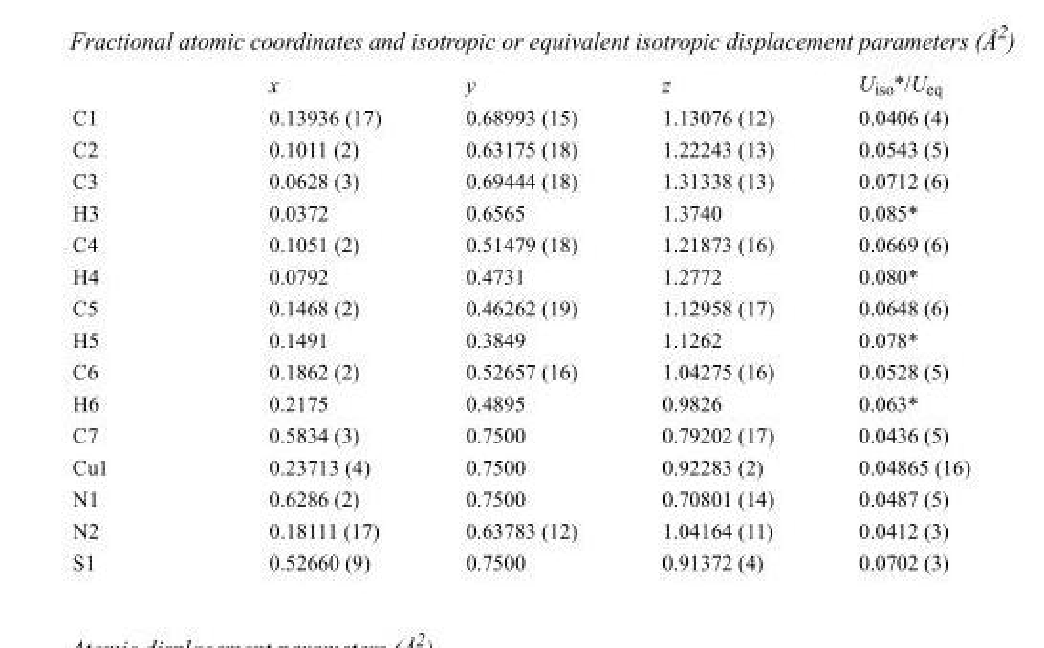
<table><thead><tr><td></td><td>x</td><td>y</td><td>z</td><td>U<sub>iso</sub>*/U<sub>eq</sub></td></tr></thead><tbody><tr><td>C1</td><td>0.13936 (17)</td><td>0.68993 (15)</td><td>1.13076 (12)</td><td>0.0406 (4)</td></tr><tr><td>C2</td><td>0.1011 (2)</td><td>0.63175 (18)</td><td>1.22243 (13)</td><td>0.0543 (5)</td></tr><tr><td>C3</td><td>0.0628 (3)</td><td>0.69444 (18)</td><td>1.31338 (13)</td><td>0.0712 (6)</td></tr><tr><td>H3</td><td>0.0372</td><td>0.6565</td><td>1.3740</td><td>0.085*</td></tr><tr><td>C4</td><td>0.1051 (2)</td><td>0.51479 (18)</td><td>1.21873 (16)</td><td>0.0669 (6)</td></tr><tr><td>H4</td><td>0.0792</td><td>0.4731</td><td>1.2772</td><td>0.080*</td></tr><tr><td>C5</td><td>0.1468 (2)</td><td>0.46262 (19)</td><td>1.12958 (17)</td><td>0.0648 (6)</td></tr><tr><td>H5</td><td>0.1491</td><td>0.3849</td><td>1.1262</td><td>0.078*</td></tr><tr><td>C6</td><td>0.1862 (2)</td><td>0.52657 (16)</td><td>1.04275 (16)</td><td>0.0528 (5)</td></tr><tr><td>H6</td><td>0.2175</td><td>0.4895</td><td>0.9826</td><td>0.063*</td></tr><tr><td>C7</td><td>0.5834 (3)</td><td>0.7500</td><td>0.79202 (17)</td><td>0.0436 (5)</td></tr><tr><td>Cu1</td><td>0.23713 (4)</td><td>0.7500</td><td>0.92283 (2)</td><td>0.04865 (16)</td></tr><tr><td>N1</td><td>0.6286 (2)</td><td>0.7500</td><td>0.70801 (14)</td><td>0.0487 (5)</td></tr><tr><td>N2</td><td>0.18111 (17)</td><td>0.63783 (12)</td><td>1.04164 (11)</td><td>0.0412 (3)</td></tr><tr><td>S1</td><td>0.52660 (9)</td><td>0.7500</td><td>0.91372 (4)</td><td>0.0702 (3)</td></tr></tbody></table>